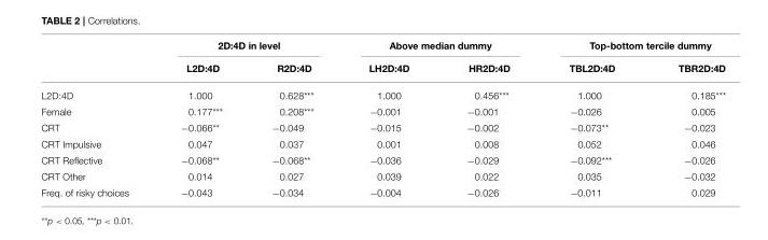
<table><thead><tr><td rowspan="2"></td><td colspan="2">2D:4D in level</td><td colspan="2">Above median dummy</td><td colspan="2">Top-bottom tercile dummy</td></tr><tr><td>L2D:4D</td><td>R2D:4D</td><td>LH2D:4D</td><td>HR2D:4D</td><td>TBL2D:4D</td><td>TBR2D:4D</td></tr></thead><tbody><tr><td>L2D:4D</td><td>1.000</td><td>0.628***</td><td>1.000</td><td>0.456***</td><td>1.000</td><td>0.185***</td></tr><tr><td>Female</td><td>0.177***</td><td>0.208***</td><td>−0.001</td><td>−0.001</td><td>−0.026</td><td>0.005</td></tr><tr><td>CRT</td><td>−0.066**</td><td>−0.049</td><td>−0.015</td><td>−0.002</td><td>−0.073**</td><td>−0.023</td></tr><tr><td>CRT Impulsive</td><td>0.047</td><td>0.037</td><td>0.001</td><td>0.008</td><td>0.052</td><td>0.046</td></tr><tr><td>CRT Reflective</td><td>−0.068**</td><td>−0.068**</td><td>−0.036</td><td>−0.029</td><td>−0.092***</td><td>−0.026</td></tr><tr><td>CRT Other</td><td>0.014</td><td>0.027</td><td>0.039</td><td>0.022</td><td>0.035</td><td>−0.032</td></tr><tr><td>Freq. of risky choices</td><td>−0.043</td><td>−0.034</td><td>−0.004</td><td>−0.026</td><td>−0.011</td><td>0.029</td></tr></tbody></table>